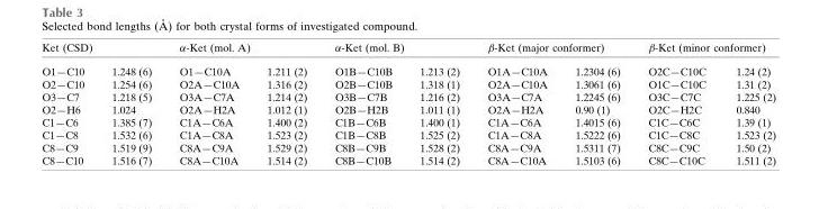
<table><thead><tr><td colspan="2">Ket (CSD)</td><td colspan="2">α-Ket (mol. A)</td><td colspan="2">α-Ket (mol. B)</td><td colspan="2">β-Ket (major conformer)</td><td colspan="2">β-Ket (minor conformer)</td></tr><tr><td>O1—C10</td><td>1.248 (6)</td><td>O1—C10A</td><td>1.211 (2)</td><td>O1B—C10B</td><td>1.213 (2)</td><td>O1A—C10A</td><td>1.2304 (6)</td><td>O2C—C10C</td><td>1.24 (2)</td></tr></thead><tbody><tr><td>O2—C10</td><td>1.254 (6)</td><td>O2A—C10A</td><td>1.316 (2)</td><td>O2B—C10B</td><td>1.318 (1)</td><td>O2A—C10A</td><td>1.3061 (6)</td><td>O1C—C10C</td><td>1.31 (2)</td></tr><tr><td>O3—C7</td><td>1.218 (5)</td><td>O3A—C7A</td><td>1.214 (2)</td><td>O3B—C7B</td><td>1.216 (2)</td><td>O3A—C7A</td><td>1.2245 (6)</td><td>O3C—C7C</td><td>1.225 (2)</td></tr><tr><td>O2—H6</td><td>1.024</td><td>O2A—H2A</td><td>1.012 (1)</td><td>O2B—H2B</td><td>1.011 (1)</td><td>O2A—H2A</td><td>0.90 (1)</td><td>O2C—H2C</td><td>0.840</td></tr><tr><td>C1—C6</td><td>1.385 (7)</td><td>C1A—C6A</td><td>1.400 (2)</td><td>C1B—C6B</td><td>1.400 (1)</td><td>C1A—C6A</td><td>1.4015 (6)</td><td>C1C—C6C</td><td>1.39 (1)</td></tr><tr><td>C1—C8</td><td>1.532 (6)</td><td>C1A—C8A</td><td>1.523 (2)</td><td>C1B—C8B</td><td>1.525 (2)</td><td>C1A—C8A</td><td>1.5222 (6)</td><td>C1C—C8C</td><td>1.523 (2)</td></tr><tr><td>C8—C9</td><td>1.519 (9)</td><td>C8A—C9A</td><td>1.529 (2)</td><td>C8B—C9B</td><td>1.528 (2)</td><td>C8A—C9A</td><td>1.5311 (7)</td><td>C8C—C9C</td><td>1.50 (2)</td></tr><tr><td>C8—C10</td><td>1.516 (7)</td><td>C8A—C10A</td><td>1.514 (2)</td><td>C8B—C10B</td><td>1.514 (2)</td><td>C8A—C10A</td><td>1.5103 (6)</td><td>C8C—C10C</td><td>1.511 (2)</td></tr></tbody></table>